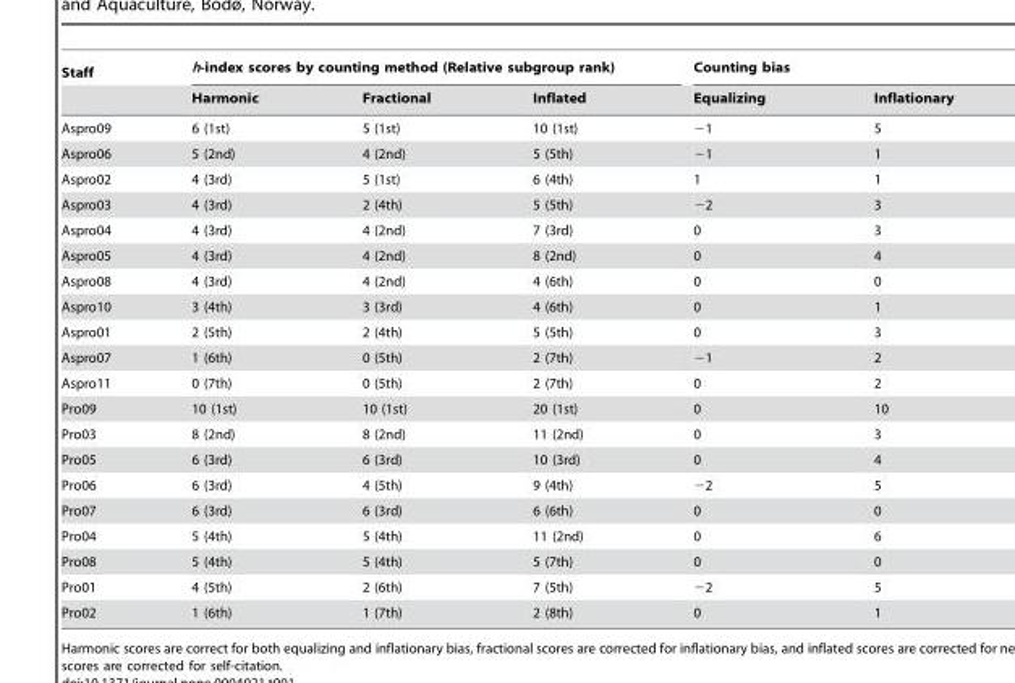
<table><thead><tr><td rowspan="2">Staff</td><td colspan="3">h-index scores by counting method (Relative subgroup rank)</td><td colspan="2">Counting bias</td></tr><tr><td>Harmonic</td><td>Fractional</td><td>Inflated</td><td>Equalizing</td><td>Inflationary</td></tr></thead><tbody><tr><td>Aspro09</td><td>6 (1st)</td><td>5 (1st)</td><td>10 (1st)</td><td>−1</td><td>5</td></tr><tr><td>Aspro06</td><td>5 (2nd)</td><td>4 (2nd)</td><td>5 (5th)</td><td>−1</td><td>1</td></tr><tr><td>Aspro02</td><td>4 (3rd)</td><td>5 (1st)</td><td>6 (4th)</td><td>1</td><td>1</td></tr><tr><td>Aspro03</td><td>4 (3rd)</td><td>2 (4th)</td><td>5 (5th)</td><td>−2</td><td>3</td></tr><tr><td>Aspro04</td><td>4 (3rd)</td><td>4 (2nd)</td><td>7 (3rd)</td><td>0</td><td>3</td></tr><tr><td>Aspro05</td><td>4 (3rd)</td><td>4 (2nd)</td><td>8 (2nd)</td><td>0</td><td>4</td></tr><tr><td>Aspro08</td><td>4 (3rd)</td><td>4 (2nd)</td><td>4 (6th)</td><td>0</td><td>0</td></tr><tr><td>Aspro10</td><td>3 (4th)</td><td>3 (3rd)</td><td>4 (6th)</td><td>0</td><td>1</td></tr><tr><td>Aspro01</td><td>2 (5th)</td><td>2 (4th)</td><td>5 (5th)</td><td>0</td><td>3</td></tr><tr><td>Aspro07</td><td>1 (6th)</td><td>0 (5th)</td><td>2 (7th)</td><td>−1</td><td>2</td></tr><tr><td>Aspro11</td><td>0 (7th)</td><td>0 (5th)</td><td>2 (7th)</td><td>0</td><td>2</td></tr><tr><td>Pro09</td><td>10 (1st)</td><td>10 (1st)</td><td>20 (1st)</td><td>0</td><td>10</td></tr><tr><td>Pro03</td><td>8 (2nd)</td><td>8 (2nd)</td><td>11 (2nd)</td><td>0</td><td>3</td></tr><tr><td>Pro05</td><td>6 (3rd)</td><td>6 (3rd)</td><td>10 (3rd)</td><td>0</td><td>4</td></tr><tr><td>Pro06</td><td>6 (3rd)</td><td>4 (5th)</td><td>9 (4th)</td><td>−2</td><td>5</td></tr><tr><td>Pro07</td><td>6 (3rd)</td><td>6 (3rd)</td><td>6 (6th)</td><td>0</td><td>0</td></tr><tr><td>Pro04</td><td>5 (4th)</td><td>5 (4th)</td><td>11 (2nd)</td><td>0</td><td>6</td></tr><tr><td>Pro08</td><td>5 (4th)</td><td>5 (4th)</td><td>5 (7th)</td><td>0</td><td>0</td></tr><tr><td>Pro01</td><td>4 (5th)</td><td>2 (6th)</td><td>7 (5th)</td><td>−2</td><td>5</td></tr><tr><td>Pro02</td><td>1 (6th)</td><td>1 (7th)</td><td>2 (8th)</td><td>0</td><td>1</td></tr></tbody></table>